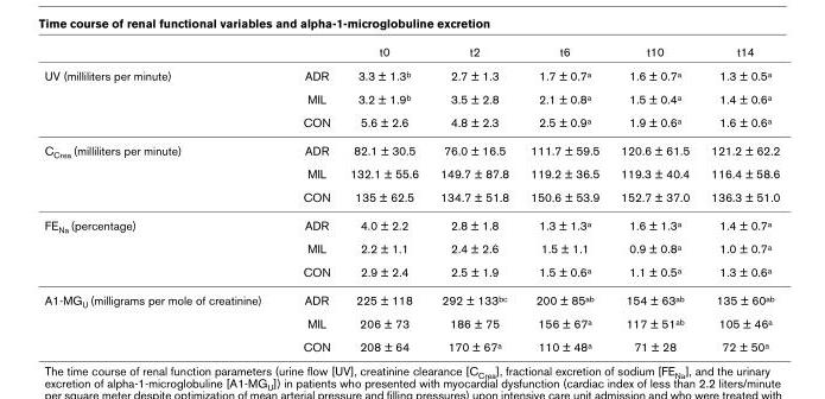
<table><thead><tr><td></td><td></td><td>t0</td><td>t2</td><td>t6</td><td>t10</td><td>t14</td></tr></thead><tbody><tr><td rowspan="3">UV (milliliters per minute)</td><td>ADR</td><td>3.3 ± 1.3<sup>b</sup></td><td>2.7 ± 1.3</td><td>1.7 ± 0.7<sup>a</sup></td><td>1.6 ± 0.7<sup>a</sup></td><td>1.3 ± 0.5<sup>a</sup></td></tr><tr><td>MIL</td><td>3.2 ± 1.9<sup>b</sup></td><td>3.5 ± 2.8</td><td>2.1 ± 0.8<sup>a</sup></td><td>1.5 ± 0.4<sup>a</sup></td><td>1.4 ± 0.6<sup>a</sup></td></tr><tr><td>CON</td><td>5.6 ± 2.6</td><td>4.8 ± 2.3</td><td>2.5 ± 0.9<sup>a</sup></td><td>1.9 ± 0.6<sup>a</sup></td><td>1.6 ± 0.6<sup>a</sup></td></tr><tr><td rowspan="3">C<sub>Crea</sub> (milliliters per minute)</td><td>ADR</td><td>82.1 ± 30.5</td><td>76.0 ± 16.5</td><td>111.7 ± 59.5</td><td>120.6 ± 61.5</td><td>121.2 ± 62.2</td></tr><tr><td>MIL</td><td>132.1 ± 55.6</td><td>149.7 ± 87.8</td><td>119.2 ± 36.5</td><td>119.3 ± 40.4</td><td>116.4 ± 58.6</td></tr><tr><td>CON</td><td>135 ± 62.5</td><td>134.7 ± 51.8</td><td>150.6 ± 53.9</td><td>152.7 ± 37.0</td><td>136.3 ± 51.0</td></tr><tr><td rowspan="3">FE<sub>Na</sub> (percentage)</td><td>ADR</td><td>4.0 ± 2.2</td><td>2.8 ± 1.8</td><td>1.3 ± 1.3<sup>a</sup></td><td>1.6 ± 1.3<sup>a</sup></td><td>1.4 ± 0.7<sup>a</sup></td></tr><tr><td>MIL</td><td>2.2 ± 1.1</td><td>2.4 ± 2.6</td><td>1.5 ± 1.1</td><td>0.9 ± 0.8<sup>a</sup></td><td>1.0 ± 0.7<sup>a</sup></td></tr><tr><td>CON</td><td>2.9 ± 2.4</td><td>2.5 ± 1.9</td><td>1.5 ± 0.6<sup>a</sup></td><td>1.1 ± 0.5<sup>a</sup></td><td>1.3 ± 0.6<sup>a</sup></td></tr><tr><td rowspan="3">A1-MG<sub>U</sub> (milligrams per mole of creatinine)</td><td>ADR</td><td>225 ± 118</td><td>292 ± 133<sup>bc</sup></td><td>200 ± 85<sup>ab</sup></td><td>154 ± 63<sup>ab</sup></td><td>135 ± 60<sup>ab</sup></td></tr><tr><td>MIL</td><td>206 ± 73</td><td>186 ± 75</td><td>156 ± 67<sup>a</sup></td><td>117 ± 51<sup>ab</sup></td><td>105 ± 46<sup>a</sup></td></tr><tr><td>CON</td><td>208 ± 64</td><td>170 ± 67<sup>a</sup></td><td>110 ± 48<sup>a</sup></td><td>71 ± 28</td><td>72 ± 50<sup>a</sup></td></tr></tbody></table>